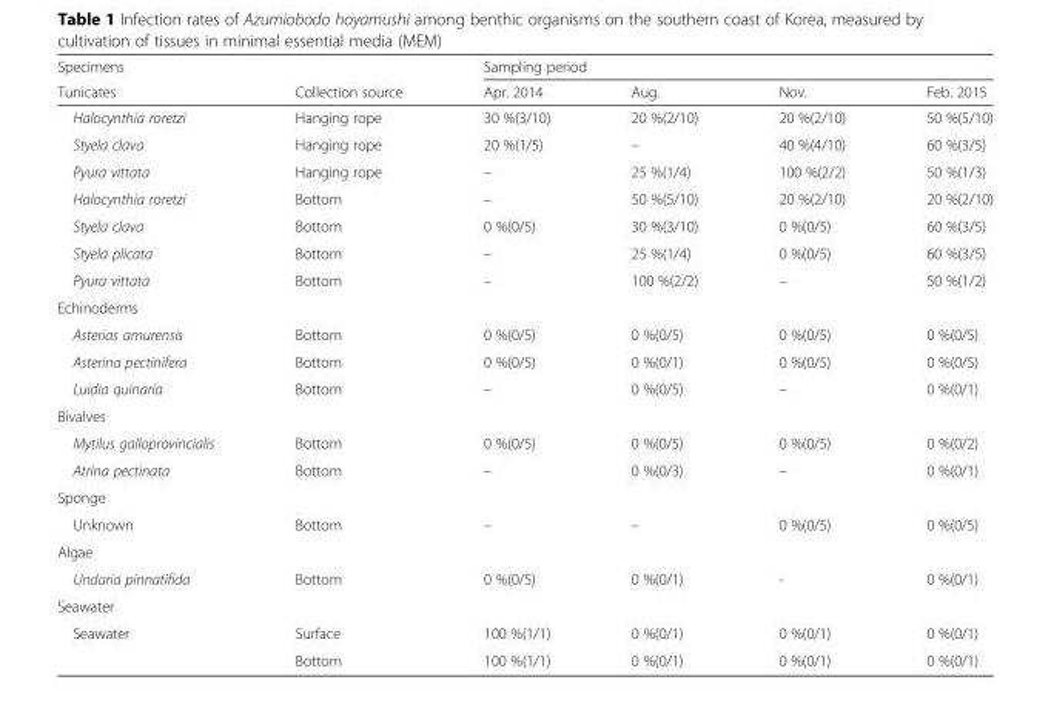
<table><thead><tr><td rowspan="2">Specimens Tunicates</td><td rowspan="2">Collection source</td><td colspan="4">Sampling period</td></tr><tr><td>Apr. 2014</td><td>Aug.</td><td>Nov.</td><td>Feb. 2015</td></tr></thead><tbody><tr><td>Halocynthia roretzi</td><td>Hanging rope</td><td>30 %(3/10)</td><td>20 %(2/10)</td><td>20 %(2/10)</td><td>50 %(5/10)</td></tr><tr><td>Styela clava</td><td>Hanging rope</td><td>20 %(1/5)</td><td>–</td><td>40 %(4/10)</td><td>60 %(3/5)</td></tr><tr><td>Pyura vittata</td><td>Hanging rope</td><td>–</td><td>25 %(1/4)</td><td>100 %(2/2)</td><td>50 %(1/3)</td></tr><tr><td>Halocynthia roretzi</td><td>Bottom</td><td>–</td><td>50 %(5/10)</td><td>20 %(2/10)</td><td>20 %(2/10)</td></tr><tr><td>Styela clava</td><td>Bottom</td><td>0 %(0/5)</td><td>30 %(3/10)</td><td>0 %(0/5)</td><td>60 %(3/5)</td></tr><tr><td>Styela plicata</td><td>Bottom</td><td>–</td><td>25 %(1/4)</td><td>0 %(0/5)</td><td>60 %(3/5)</td></tr><tr><td>Pyura vittata</td><td>Bottom</td><td>–</td><td>100 %(2/2)</td><td>–</td><td>50 %(1/2)</td></tr><tr><td colspan="6">Echinoderms</td></tr><tr><td>Asterias amurensis</td><td>Bottom</td><td>0 %(0/5)</td><td>0 %(0/5)</td><td>0 %(0/5)</td><td>0 %(0/5)</td></tr><tr><td>Asterina pectinifera</td><td>Bottom</td><td>0 %(0/5)</td><td>0 %(0/1)</td><td>0 %(0/5)</td><td>0 %(0/5)</td></tr><tr><td>Luidia quinaria</td><td>Bottom</td><td>–</td><td>0 %(0/5)</td><td>–</td><td>0 %(0/1)</td></tr><tr><td colspan="6">Bivalves</td></tr><tr><td>Mytilus galloprovincialis</td><td>Bottom</td><td>0 %(0/5)</td><td>0 %(0/5)</td><td>0 %(0/5)</td><td>0 %(0/2)</td></tr><tr><td>Atrina pectinata</td><td>Bottom</td><td>–</td><td>0 %(0/3)</td><td>–</td><td>0 %(0/1)</td></tr><tr><td colspan="6">Sponge</td></tr><tr><td>Unknown</td><td>Bottom</td><td>–</td><td>–</td><td>0 %(0/5)</td><td>0 %(0/5)</td></tr><tr><td colspan="6">Algae</td></tr><tr><td>Undaria pinnatifida</td><td>Bottom</td><td>0 %(0/5)</td><td>0 %(0/1)</td><td>-</td><td>0 %(0/1)</td></tr><tr><td colspan="6">Seawater</td></tr><tr><td rowspan="2">Seawater</td><td>Surface</td><td>100 %(1/1)</td><td>0 %(0/1)</td><td>0 %(0/1)</td><td>0 %(0/1)</td></tr><tr><td>Bottom</td><td>100 %(1/1)</td><td>0 %(0/1)</td><td>0 %(0/1)</td><td>0 %(0/1)</td></tr></tbody></table>